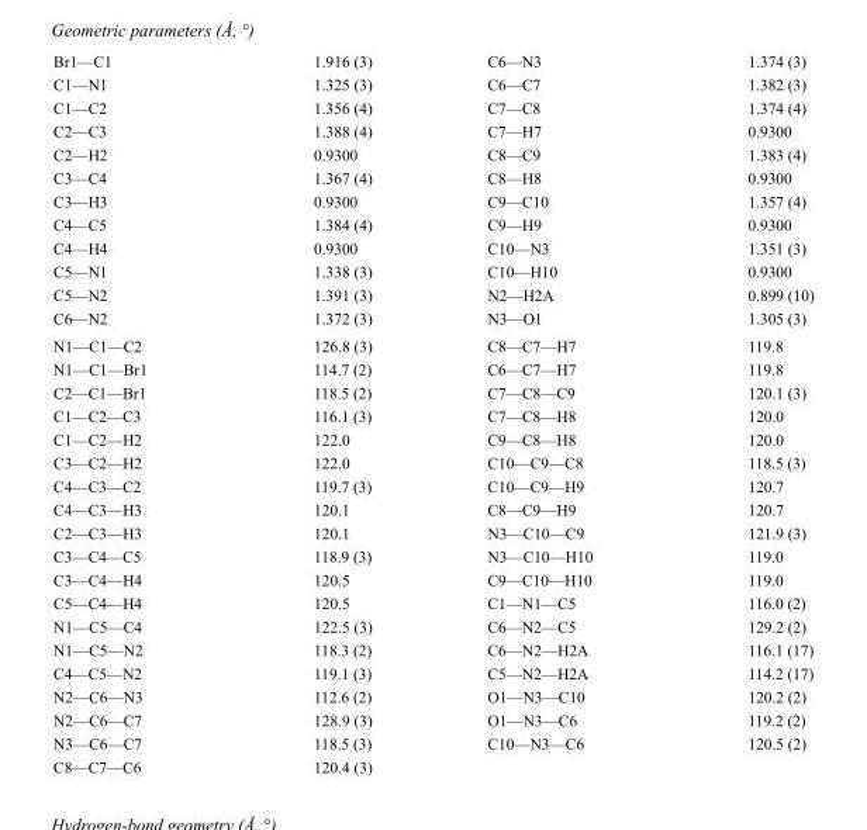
<table><tbody><tr><td>Br1—C1</td><td>1.916 (3)</td><td>C6—N3</td><td>1.374 (3)</td></tr><tr><td>C1—N1</td><td>1.325 (3)</td><td>C6—C7</td><td>1.382 (3)</td></tr><tr><td>C1—C2</td><td>1.356 (4)</td><td>C7—C8</td><td>1.374 (4)</td></tr><tr><td>C2—C3</td><td>1.388 (4)</td><td>C7—H7</td><td>0.9300</td></tr><tr><td>C2—H2</td><td>0.9300</td><td>C8—C9</td><td>1.383 (4)</td></tr><tr><td>C3—C4</td><td>1.367 (4)</td><td>C8—H8</td><td>0.9300</td></tr><tr><td>C3—H3</td><td>0.9300</td><td>C9—C10</td><td>1.357 (4)</td></tr><tr><td>C4—C5</td><td>1.384 (4)</td><td>C9—H9</td><td>0.9300</td></tr><tr><td>C4—H4</td><td>0.9300</td><td>C10—N3</td><td>1.351 (3)</td></tr><tr><td>C5—N1</td><td>1.338 (3)</td><td>C10—H10</td><td>0.9300</td></tr><tr><td>C5—N2</td><td>1.391 (3)</td><td>N2—H2A</td><td>0.899 (10)</td></tr><tr><td>C6—N2</td><td>1.372 (3)</td><td>N3—O1</td><td>1.305 (3)</td></tr><tr><td>N1—C1—C2</td><td>126.8 (3)</td><td>C8—C7—H7</td><td>119.8</td></tr><tr><td>N1—C1—Br1</td><td>114.7 (2)</td><td>C6—C7—H7</td><td>119.8</td></tr><tr><td>C2—C1—Br1</td><td>118.5 (2)</td><td>C7—C8—C9</td><td>120.1 (3)</td></tr><tr><td>C1—C2—C3</td><td>116.1 (3)</td><td>C7—C8—H8</td><td>120.0</td></tr><tr><td>C1—C2—H2</td><td>122.0</td><td>C9—C8—H8</td><td>120.0</td></tr><tr><td>C3—C2—H2</td><td>122.0</td><td>C10—C9—C8</td><td>118.5 (3)</td></tr><tr><td>C4—C3—C2</td><td>119.7 (3)</td><td>C10—C9—H9</td><td>120.7</td></tr><tr><td>C4—C3—H3</td><td>120.1</td><td>C8—C9—H9</td><td>120.7</td></tr><tr><td>C2—C3—H3</td><td>120.1</td><td>N3—C10—C9</td><td>121.9 (3)</td></tr><tr><td>C3—C4—C5</td><td>118.9 (3)</td><td>N3—C10—H10</td><td>119.0</td></tr><tr><td>C3—C4—H4</td><td>120.5</td><td>C9—C10—H10</td><td>119.0</td></tr><tr><td>C5—C4—H4</td><td>120.5</td><td>C1—N1—C5</td><td>116.0 (2)</td></tr><tr><td>N1—C5—C4</td><td>122.5 (3)</td><td>C6—N2—C5</td><td>129.2 (2)</td></tr><tr><td>N1—C5—N2</td><td>118.3 (2)</td><td>C6—N2—H2A</td><td>116.1 (17)</td></tr><tr><td>C4—C5—N2</td><td>119.1 (3)</td><td>C5—N2—H2A</td><td>114.2 (17)</td></tr><tr><td>N2—C6—N3</td><td>112.6 (2)</td><td>O1—N3—C10</td><td>120.2 (2)</td></tr><tr><td>N2—C6—C7</td><td>128.9 (3)</td><td>O1—N3—C6</td><td>119.2 (2)</td></tr><tr><td>N3—C6—C7</td><td>118.5 (3)</td><td>C10—N3—C6</td><td>120.5 (2)</td></tr><tr><td>C8—C7—C6</td><td>120.4 (3)</td><td></td><td></td></tr></tbody></table>